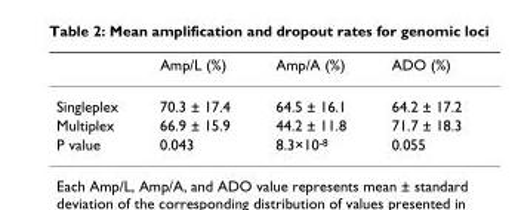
<table><thead><tr><td></td><td>Amp/L (%)</td><td>Amp/A (%)</td><td>ADO (%)</td></tr></thead><tbody><tr><td>Singleplex</td><td>70.3 ± 17.4</td><td>64.5 ± 16.1</td><td>64.2 ± 17.2</td></tr><tr><td>Multiplex</td><td>66.9 ± 15.9</td><td>44.2 ± 11.8</td><td>71.7 ± 18.3</td></tr><tr><td>P value</td><td>0.043</td><td>8.3×10<sup>-8</sup></td><td>0.055</td></tr></tbody></table>